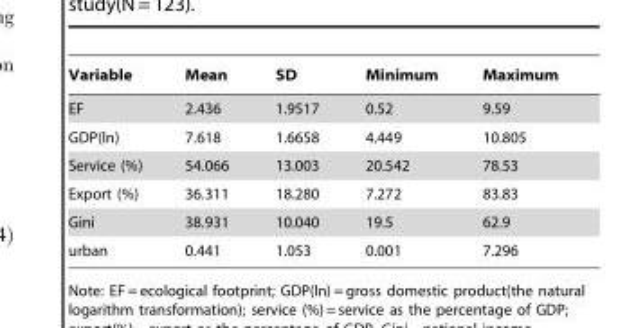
<table><thead><tr><td>Variable</td><td>Mean</td><td>SD</td><td>Minimum</td><td>Maximum</td></tr></thead><tbody><tr><td>EF</td><td>2.436</td><td>1.9517</td><td>0.52</td><td>9.59</td></tr><tr><td>GDP(ln)</td><td>7.618</td><td>1.6658</td><td>4.449</td><td>10.805</td></tr><tr><td>Service (%)</td><td>54.066</td><td>13.003</td><td>20.542</td><td>78.53</td></tr><tr><td>Export (%)</td><td>36.311</td><td>18.280</td><td>7.272</td><td>83.83</td></tr><tr><td>Gini</td><td>38.931</td><td>10.040</td><td>19.5</td><td>62.9</td></tr><tr><td>urban</td><td>0.441</td><td>1.053</td><td>0.001</td><td>7.296</td></tr></tbody></table>